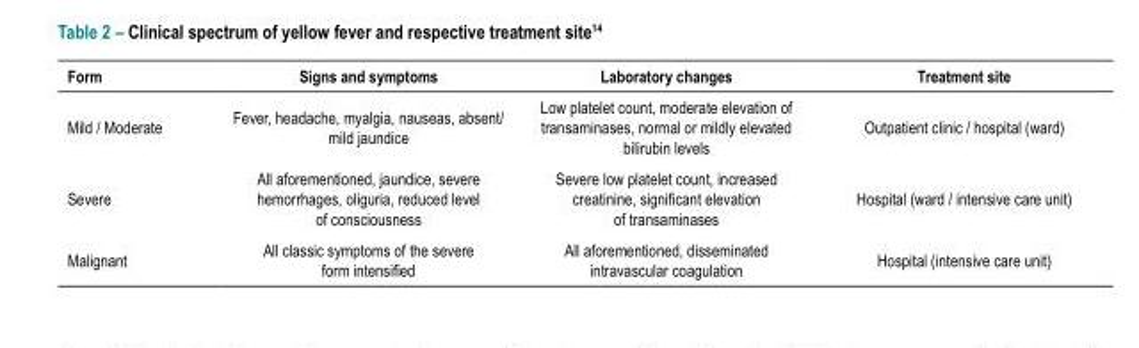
<table><thead><tr><td>Form</td><td>Signs and symptoms</td><td>Laboratory changes</td><td>Treatment site</td></tr></thead><tbody><tr><td>Mild / Moderate</td><td>Fever, headache, myalgia, nauseas, absent/ mild jaundice</td><td>Low platelet count, moderate elevation of transaminases, normal or mildly elevated bilirubin levels</td><td>Outpatient clinic / hospital (ward)</td></tr><tr><td>Severe</td><td>All aforementioned, jaundice, severe hemorrhages, oliguria, reduced level of consciousness</td><td>Severe low platelet count, increased creatinine, significant elevation of transaminases</td><td>Hospital (ward / intensive care unit)</td></tr><tr><td>Malignant</td><td>All classic symptoms of the severe form intensified</td><td>All aforementioned, disseminated intravascular coagulation</td><td>Hospital (intensive care unit)</td></tr></tbody></table>